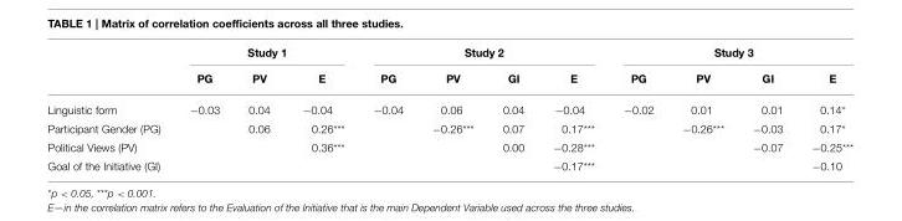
<table><thead><tr><td rowspan="2"></td><td colspan="3">Study 1</td><td colspan="4">Study 2</td><td colspan="4">Study 3</td></tr><tr><td>PG</td><td>PV</td><td>E</td><td>PG</td><td>PV</td><td>GI</td><td>E</td><td>PG</td><td>PV</td><td>GI</td><td>E</td></tr></thead><tbody><tr><td>Linguistic form</td><td>−0.03</td><td>0.04</td><td>−0.04</td><td>−0.04</td><td>0.06</td><td>0.04</td><td>−0.04</td><td>−0.02</td><td>0.01</td><td>0.01</td><td>0.14*</td></tr><tr><td>Participant Gender (PG)</td><td></td><td>0.06</td><td>0.26***</td><td></td><td>−0.26***</td><td>0.07</td><td>0.17***</td><td></td><td>−0.26***</td><td>−0.03</td><td>0.17*</td></tr><tr><td>Political Views (PV)</td><td></td><td></td><td>0.36***</td><td></td><td></td><td>0.00</td><td>−0.28***</td><td></td><td></td><td>−0.07</td><td>−0.25***</td></tr><tr><td>Goal of the Initiative (GI)</td><td></td><td></td><td></td><td></td><td></td><td></td><td>−0.17***</td><td></td><td></td><td></td><td>−0.10</td></tr></tbody></table>